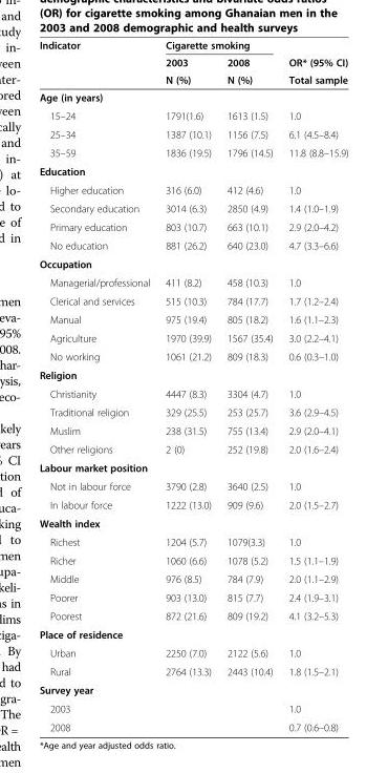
<table><thead><tr><td rowspan="3">Indicator</td><td colspan="2">Cigarette smoking</td><td rowspan="3">OR* (95% CI) Total sample</td></tr><tr><td rowspan="2">2003 N (%)</td><td rowspan="2">2008 N (%)</td></tr><tr></tr></thead><tbody><tr><td colspan="4">Age (in years)</td></tr><tr><td>15–24</td><td>1791(1.6)</td><td>1613 (1.5)</td><td>1.0</td></tr><tr><td>25–34</td><td>1387 (10.1)</td><td>1156 (7.5)</td><td>6.1 (4.5–8.4)</td></tr><tr><td>35–59</td><td>1836 (19.5)</td><td>1796 (14.5)</td><td>11.8 (8.8–15.9)</td></tr><tr><td colspan="4">Education</td></tr><tr><td>Higher education</td><td>316 (6.0)</td><td>412 (4.6)</td><td>1.0</td></tr><tr><td>Secondary education</td><td>3014 (6.3)</td><td>2850 (4.9)</td><td>1.4 (1.0–1.9)</td></tr><tr><td>Primary education</td><td>803 (10.7)</td><td>663 (10.1)</td><td>2.9 (2.0–4.2)</td></tr><tr><td>No education</td><td>881 (26.2)</td><td>640 (23.0)</td><td>4.7 (3.3–6.6)</td></tr><tr><td colspan="4">Occupation</td></tr><tr><td>Managerial/professional</td><td>411 (8.2)</td><td>458 (10.3)</td><td>1.0</td></tr><tr><td>Clerical and services</td><td>515 (10.3)</td><td>784 (17.7)</td><td>1.7 (1.2–2.4)</td></tr><tr><td>Manual</td><td>975 (19.4)</td><td>805 (18.2)</td><td>1.6 (1.1–2.3)</td></tr><tr><td>Agriculture</td><td>1970 (39.9)</td><td>1567 (35.4)</td><td>3.0 (2.2–4.1)</td></tr><tr><td>No working</td><td>1061 (21.2)</td><td>809 (18.3)</td><td>0.6 (0.3–1.0)</td></tr><tr><td colspan="4">Religion</td></tr><tr><td>Christianity</td><td>4447 (8.3)</td><td>3304 (4.7)</td><td>1.0</td></tr><tr><td>Traditional religion</td><td>329 (25.5)</td><td>253 (25.7)</td><td>3.6 (2.9–4.5)</td></tr><tr><td>Muslim</td><td>238 (31.5)</td><td>755 (13.4)</td><td>2.9 (2.0–4.1)</td></tr><tr><td>Other religions</td><td>2 (0)</td><td>252 (19.8)</td><td>2.0 (1.6–2.4)</td></tr><tr><td colspan="4">Labour market position</td></tr><tr><td>Not in labour force</td><td>3790 (2.8)</td><td>3640 (2.5)</td><td>1.0</td></tr><tr><td>In labour force</td><td>1222 (13.0)</td><td>909 (9.6)</td><td>2.0 (1.5–2.7)</td></tr><tr><td colspan="4">Wealth index</td></tr><tr><td>Richest</td><td>1204 (5.7)</td><td>1079(3.3)</td><td>1.0</td></tr><tr><td>Richer</td><td>1060 (6.6)</td><td>1078 (5.2)</td><td>1.5 (1.1–1.9)</td></tr><tr><td>Middle</td><td>976 (8.5)</td><td>784 (7.9)</td><td>2.0 (1.1–2.9)</td></tr><tr><td>Poorer</td><td>903 (13.0)</td><td>815 (7.7)</td><td>2.4 (1.9–3.1)</td></tr><tr><td>Poorest</td><td>872 (21.6)</td><td>809 (19.2)</td><td>4.1 (3.2–5.3)</td></tr><tr><td colspan="4">Place of residence</td></tr><tr><td>Urban</td><td>2250 (7.0)</td><td>2122 (5.6)</td><td>1.0</td></tr><tr><td>Rural</td><td>2764 (13.3)</td><td>2443 (10.4)</td><td>1.8 (1.5–2.1)</td></tr><tr><td colspan="4">Survey year</td></tr><tr><td>2003</td><td></td><td></td><td>1.0</td></tr><tr><td>2008</td><td></td><td></td><td>0.7 (0.6–0.8)</td></tr></tbody></table>